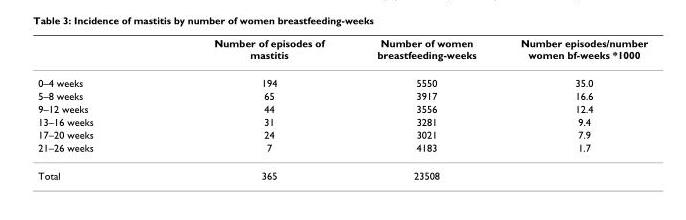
<table><thead><tr><td></td><td>Number of episodes of mastitis</td><td>Number of women breastfeeding-weeks</td><td>Number episodes/number women bf-weeks *1000</td></tr></thead><tbody><tr><td>0–4 weeks</td><td>194</td><td>5550</td><td>35.0</td></tr><tr><td>5–8 weeks</td><td>65</td><td>3917</td><td>16.6</td></tr><tr><td>9–12 weeks</td><td>44</td><td>3556</td><td>12.4</td></tr><tr><td>13–16 weeks</td><td>31</td><td>3281</td><td>9.4</td></tr><tr><td>17–20 weeks</td><td>24</td><td>3021</td><td>7.9</td></tr><tr><td>21–26 weeks</td><td>7</td><td>4183</td><td>1.7</td></tr><tr><td>Total</td><td>365</td><td>23508</td><td></td></tr></tbody></table>